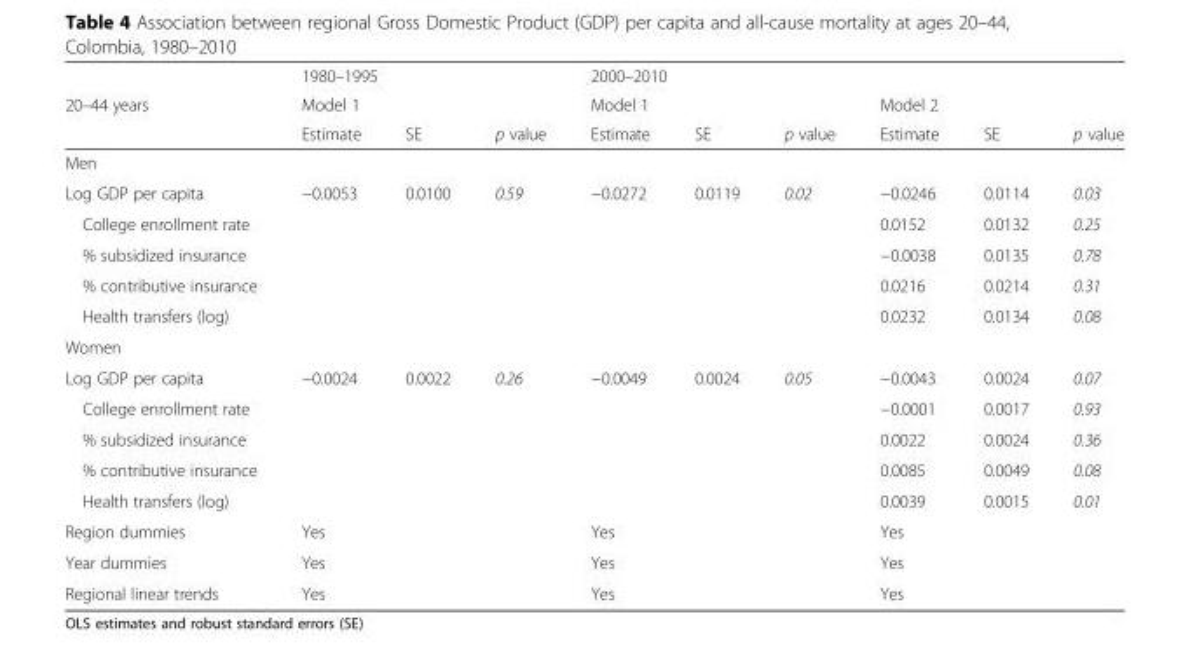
<table><thead><tr><td rowspan="3">20–44 years</td><td rowspan="2" colspan="3">1980–1995 Model 1</td><td colspan="6">2000–2010</td></tr><tr><td colspan="3">Model 1</td><td colspan="3">Model 2</td></tr><tr><td>Estimate</td><td>SE</td><td>p value</td><td>Estimate</td><td>SE</td><td>p value</td><td>Estimate</td><td>SE</td><td>p value</td></tr></thead><tbody><tr><td colspan="10">Men</td></tr><tr><td>Log GDP per capita</td><td>−0.0053</td><td>0.0100</td><td>0.59</td><td>−0.0272</td><td>0.0119</td><td>0.02</td><td>−0.0246</td><td>0.0114</td><td>0.03</td></tr><tr><td>College enrollment rate</td><td></td><td></td><td></td><td></td><td></td><td></td><td>0.0152</td><td>0.0132</td><td>0.25</td></tr><tr><td>% subsidized insurance</td><td></td><td></td><td></td><td></td><td></td><td></td><td>−0.0038</td><td>0.0135</td><td>0.78</td></tr><tr><td>% contributive insurance</td><td></td><td></td><td></td><td></td><td></td><td></td><td>0.0216</td><td>0.0214</td><td>0.31</td></tr><tr><td>Health transfers (log)</td><td></td><td></td><td></td><td></td><td></td><td></td><td>0.0232</td><td>0.0134</td><td>0.08</td></tr><tr><td colspan="10">Women</td></tr><tr><td>Log GDP per capita</td><td>−0.0024</td><td>0.0022</td><td>0.26</td><td>−0.0049</td><td>0.0024</td><td>0.05</td><td>−0.0043</td><td>0.0024</td><td>0.07</td></tr><tr><td>College enrollment rate</td><td></td><td></td><td></td><td></td><td></td><td></td><td>−0.0001</td><td>0.0017</td><td>0.93</td></tr><tr><td>% subsidized insurance</td><td></td><td></td><td></td><td></td><td></td><td></td><td>0.0022</td><td>0.0024</td><td>0.36</td></tr><tr><td>% contributive insurance</td><td></td><td></td><td></td><td></td><td></td><td></td><td>0.0085</td><td>0.0049</td><td>0.08</td></tr><tr><td>Health transfers (log)</td><td></td><td></td><td></td><td></td><td></td><td></td><td>0.0039</td><td>0.0015</td><td>0.01</td></tr><tr><td>Region dummies</td><td colspan="3">Yes</td><td colspan="3">Yes</td><td colspan="3">Yes</td></tr><tr><td>Year dummies</td><td colspan="3">Yes</td><td colspan="3">Yes</td><td colspan="3">Yes</td></tr><tr><td>Regional linear trends</td><td colspan="3">Yes</td><td colspan="3">Yes</td><td colspan="3">Yes</td></tr></tbody></table>